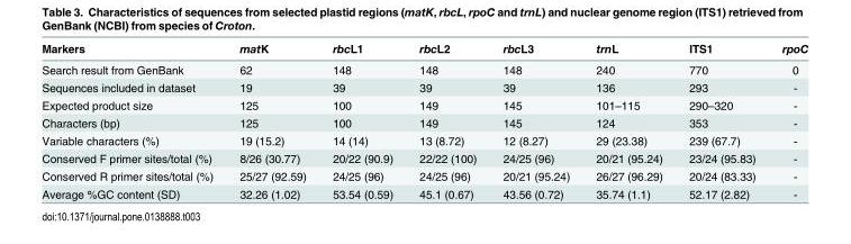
<table><thead><tr><td>Markers</td><td>matK</td><td>rbcL1</td><td>rbcL2</td><td>rbcL3</td><td>trnL</td><td>ITS1</td><td>rpoC</td></tr></thead><tbody><tr><td>Search result from GenBank</td><td>62</td><td>148</td><td>148</td><td>148</td><td>240</td><td>770</td><td>0</td></tr><tr><td>Sequences included in dataset</td><td>19</td><td>39</td><td>39</td><td>39</td><td>136</td><td>293</td><td>-</td></tr><tr><td>Expected product size</td><td>125</td><td>100</td><td>149</td><td>145</td><td>101–115</td><td>290–320</td><td>-</td></tr><tr><td>Characters (bp)</td><td>125</td><td>100</td><td>149</td><td>145</td><td>124</td><td>353</td><td>-</td></tr><tr><td>Variable characters (%)</td><td>19 (15.2)</td><td>14 (14)</td><td>13 (8.72)</td><td>12 (8.27)</td><td>29 (23.38)</td><td>239 (67.7)</td><td>-</td></tr><tr><td>Conserved F primer sites/total (%)</td><td>8/26 (30.77)</td><td>20/22 (90.9)</td><td>22/22 (100)</td><td>24/25 (96)</td><td>20/21 (95.24)</td><td>23/24 (95.83)</td><td>-</td></tr><tr><td>Conserved R primer sites/total (%)</td><td>25/27 (92.59)</td><td>24/25 (96)</td><td>24/25 (96)</td><td>20/21 (95.24)</td><td>26/27 (96.29)</td><td>20/24 (83.33)</td><td>-</td></tr><tr><td>Average %GC content (SD)</td><td>32.26 (1.02)</td><td>53.54 (0.59)</td><td>45.1 (0.67)</td><td>43.56 (0.72)</td><td>35.74 (1.1)</td><td>52.17 (2.82)</td><td>-</td></tr></tbody></table>